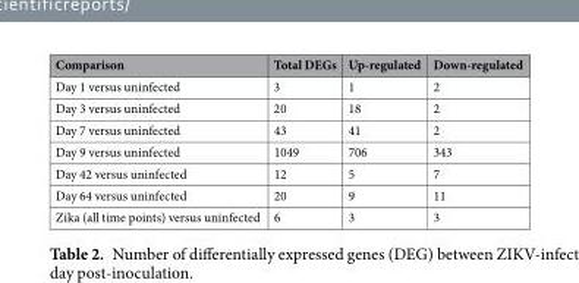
<table><thead><tr><td>Comparison</td><td>Total DEGs</td><td>Up-regulated</td><td>Down-regulated</td></tr></thead><tbody><tr><td>Day 1 versus uninfected</td><td>3</td><td>1</td><td>2</td></tr><tr><td>Day 3 versus uninfected</td><td>20</td><td>18</td><td>2</td></tr><tr><td>Day 7 versus uninfected</td><td>43</td><td>41</td><td>2</td></tr><tr><td>Day 9 versus uninfected</td><td>1049</td><td>706</td><td>343</td></tr><tr><td>Day 42 versus uninfected</td><td>12</td><td>5</td><td>7</td></tr><tr><td>Day 64 versus uninfected</td><td>20</td><td>9</td><td>11</td></tr><tr><td>Zika (all time points) versus uninfected</td><td>6</td><td>3</td><td>3</td></tr></tbody></table>